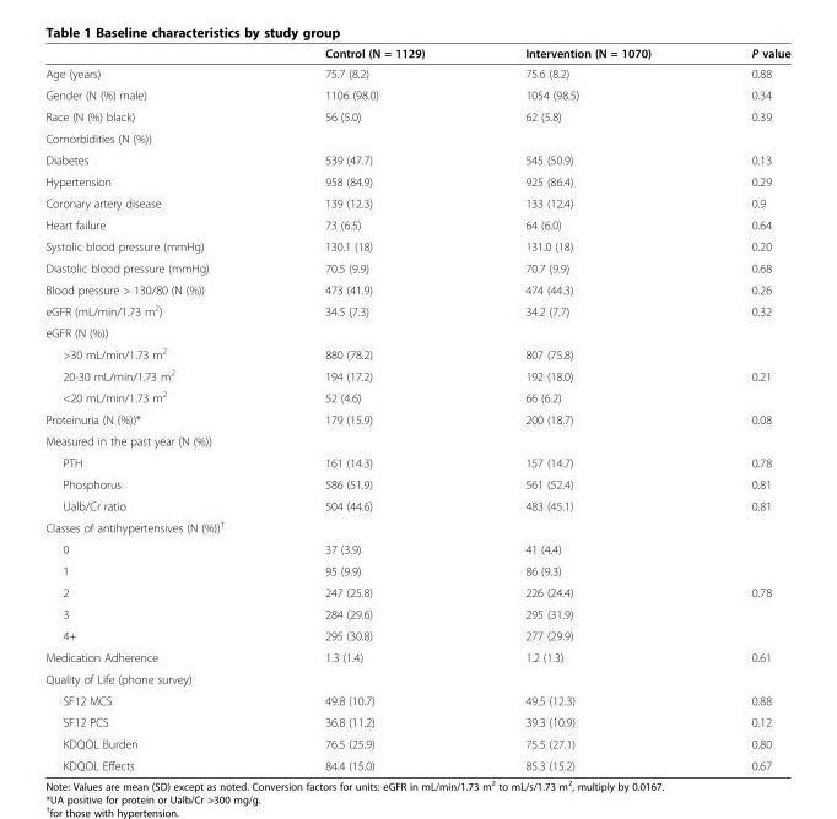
<table><thead><tr><td></td><td>Control (N = 1129)</td><td>Intervention (N = 1070)</td><td>P value</td></tr></thead><tbody><tr><td>Age (years)</td><td>75.7 (8.2)</td><td>75.6 (8.2)</td><td>0.88</td></tr><tr><td>Gender (N (%) male)</td><td>1106 (98.0)</td><td>1054 (98.5)</td><td>0.34</td></tr><tr><td>Race (N (%) black)</td><td>56 (5.0)</td><td>62 (5.8)</td><td>0.39</td></tr><tr><td colspan="4">Comorbidities (N (%))</td></tr><tr><td>Diabetes</td><td>539 (47.7)</td><td>545 (50.9)</td><td>0.13</td></tr><tr><td>Hypertension</td><td>958 (84.9)</td><td>925 (86.4)</td><td>0.29</td></tr><tr><td>Coronary artery disease</td><td>139 (12.3)</td><td>133 (12.4)</td><td>0.9</td></tr><tr><td>Heart failure</td><td>73 (6.5)</td><td>64 (6.0)</td><td>0.64</td></tr><tr><td>Systolic blood pressure (mmHg)</td><td>130.1 (18)</td><td>131.0 (18)</td><td>0.20</td></tr><tr><td>Diastolic blood pressure (mmHg)</td><td>70.5 (9.9)</td><td>70.7 (9.9)</td><td>0.68</td></tr><tr><td>Blood pressure &gt; 130/80 (N (%))</td><td>473 (41.9)</td><td>474 (44.3)</td><td>0.26</td></tr><tr><td>eGFR (mL/min/1.73 m<sup>2</sup>)</td><td>34.5 (7.3)</td><td>34.2 (7.7)</td><td>0.32</td></tr><tr><td colspan="4">eGFR (N (%))</td></tr><tr><td>&gt;30 mL/min/1.73 m<sup>2</sup></td><td>880 (78.2)</td><td>807 (75.8)</td><td></td></tr><tr><td>20-30 mL/min/1.73 m<sup>2</sup></td><td>194 (17.2)</td><td>192 (18.0)</td><td>0.21</td></tr><tr><td>&lt;20 mL/min/1.73 m<sup>2</sup></td><td>52 (4.6)</td><td>66 (6.2)</td><td></td></tr><tr><td>Proteinuria (N (%))*</td><td>179 (15.9)</td><td>200 (18.7)</td><td>0.08</td></tr><tr><td colspan="4">Measured in the past year (N (%))</td></tr><tr><td>PTH</td><td>161 (14.3)</td><td>157 (14.7)</td><td>0.78</td></tr><tr><td>Phosphorus</td><td>586 (51.9)</td><td>561 (52.4)</td><td>0.81</td></tr><tr><td>Ualb/Cr ratio</td><td>504 (44.6)</td><td>483 (45.1)</td><td>0.81</td></tr><tr><td colspan="4">Classes of antihypertensives (N (%))<sup>†</sup></td></tr><tr><td>0</td><td>37 (3.9)</td><td>41 (4.4)</td><td></td></tr><tr><td>1</td><td>95 (9.9)</td><td>86 (9.3)</td><td></td></tr><tr><td>2</td><td>247 (25.8)</td><td>226 (24.4)</td><td>0.78</td></tr><tr><td>3</td><td>284 (29.6)</td><td>295 (31.9)</td><td></td></tr><tr><td>4+</td><td>295 (30.8)</td><td>277 (29.9)</td><td></td></tr><tr><td>Medication Adherence</td><td>1.3 (1.4)</td><td>1.2 (1.3)</td><td>0.61</td></tr><tr><td colspan="4">Quality of Life (phone survey)</td></tr><tr><td>SF12 MCS</td><td>49.8 (10.7)</td><td>49.5 (12.3)</td><td>0.88</td></tr><tr><td>SF12 PCS</td><td>36.8 (11.2)</td><td>39.3 (10.9)</td><td>0.12</td></tr><tr><td>KDQOL Burden</td><td>76.5 (25.9)</td><td>75.5 (27.1)</td><td>0.80</td></tr><tr><td>KDQOL Effects</td><td>84.4 (15.0)</td><td>85.3 (15.2)</td><td>0.67</td></tr></tbody></table>